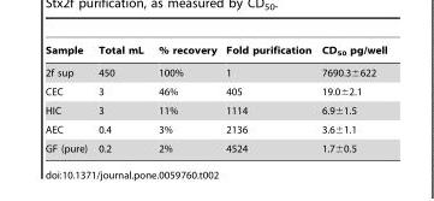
<table><thead><tr><td>Sample</td><td>Total mL</td><td>% recovery</td><td>Fold purification</td><td>CD<sub>50</sub> pg/well</td></tr></thead><tbody><tr><td>2f sup</td><td>450</td><td>100%</td><td>1</td><td>7690.3±622</td></tr><tr><td>CEC</td><td>3</td><td>46%</td><td>405</td><td>19.0±2.1</td></tr><tr><td>HIC</td><td>3</td><td>11%</td><td>1114</td><td>6.9±1.5</td></tr><tr><td>AEC</td><td>0.4</td><td>3%</td><td>2136</td><td>3.6±1.1</td></tr><tr><td>GF (pure)</td><td>0.2</td><td>2%</td><td>4524</td><td>1.7±0.5</td></tr></tbody></table>